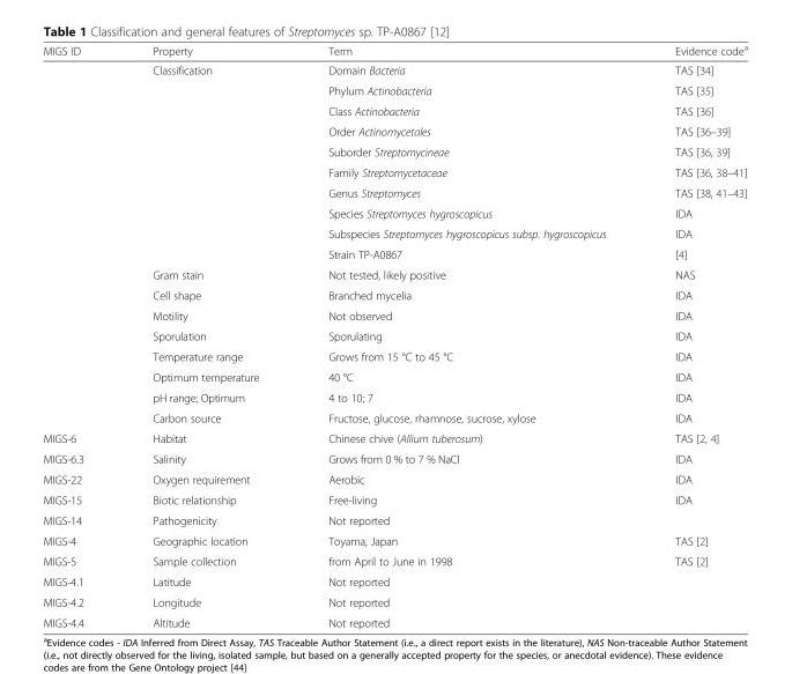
<table><thead><tr><td>MIGS ID</td><td>Property</td><td>Term</td><td>Evidence code<sup>a</sup></td></tr></thead><tbody><tr><td></td><td>Classification</td><td>Domain Bacteria</td><td>TAS [34]</td></tr><tr><td></td><td></td><td>Phylum Actinobacteria</td><td>TAS [35]</td></tr><tr><td></td><td></td><td>Class Actinobacteria</td><td>TAS [36]</td></tr><tr><td></td><td></td><td>Order Actinomycetales</td><td>TAS [36–39]</td></tr><tr><td></td><td></td><td>Suborder Streptomycineae</td><td>TAS [36, 39]</td></tr><tr><td></td><td></td><td>Family Streptomycetaceae</td><td>TAS [36, 38–41]</td></tr><tr><td></td><td></td><td>Genus Streptomyces</td><td>TAS [38, 41–43]</td></tr><tr><td></td><td></td><td>Species Streptomyces hygroscopicus</td><td>IDA</td></tr><tr><td></td><td></td><td>Subspecies Streptomyces hygroscopicus subsp. hygroscopicus</td><td>IDA</td></tr><tr><td></td><td></td><td>Strain TP-A0867</td><td>[4]</td></tr><tr><td></td><td>Gram stain</td><td>Not tested, likely positive</td><td>NAS</td></tr><tr><td></td><td>Cell shape</td><td>Branched mycelia</td><td>IDA</td></tr><tr><td></td><td>Motility</td><td>Not observed</td><td>IDA</td></tr><tr><td></td><td>Sporulation</td><td>Sporulating</td><td>IDA</td></tr><tr><td></td><td>Temperature range</td><td>Grows from 15 °C to 45 °C</td><td>IDA</td></tr><tr><td></td><td>Optimum temperature</td><td>40 °C</td><td>IDA</td></tr><tr><td></td><td>pH range; Optimum</td><td>4 to 10; 7</td><td>IDA</td></tr><tr><td></td><td>Carbon source</td><td>Fructose, glucose, rhamnose, sucrose, xylose</td><td>IDA</td></tr><tr><td>MIGS-6</td><td>Habitat</td><td>Chinese chive (Allium tuberosum)</td><td>TAS [2, 4]</td></tr><tr><td>MIGS-6.3</td><td>Salinity</td><td>Grows from 0 % to 7 % NaCl</td><td>IDA</td></tr><tr><td>MIGS-22</td><td>Oxygen requirement</td><td>Aerobic</td><td>IDA</td></tr><tr><td>MIGS-15</td><td>Biotic relationship</td><td>Free-living</td><td>IDA</td></tr><tr><td>MIGS-14</td><td>Pathogenicity</td><td>Not reported</td><td></td></tr><tr><td>MIGS-4</td><td>Geographic location</td><td>Toyama, Japan</td><td>TAS [2]</td></tr><tr><td>MIGS-5</td><td>Sample collection</td><td>from April to June in 1998</td><td>TAS [2]</td></tr><tr><td>MIGS-4.1</td><td>Latitude</td><td>Not reported</td><td></td></tr><tr><td>MIGS-4.2</td><td>Longitude</td><td>Not reported</td><td></td></tr><tr><td>MIGS-4.4</td><td>Altitude</td><td>Not reported</td><td></td></tr></tbody></table>